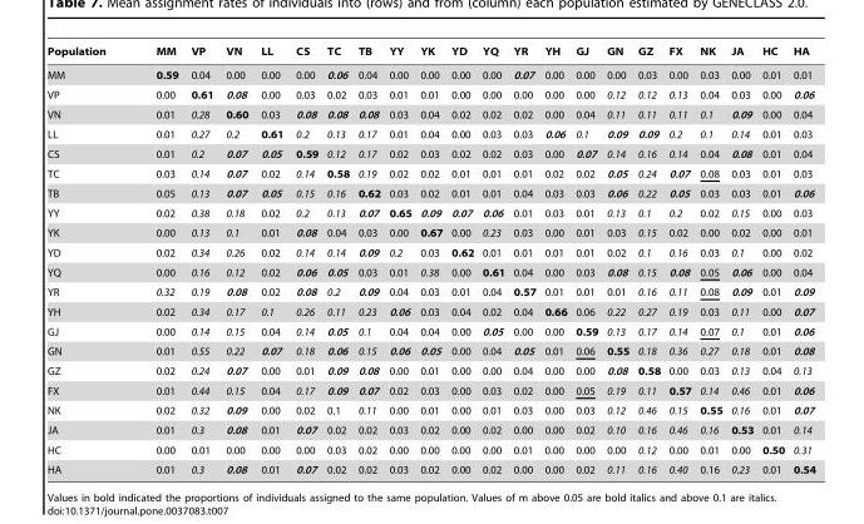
<table><thead><tr><td>Population</td><td>MM</td><td>VP</td><td>VN</td><td>LL</td><td>CS</td><td>TC</td><td>TB</td><td>YY</td><td>YK</td><td>YD</td><td>YQ</td><td>YR</td><td>YH</td><td>GJ</td><td>GN</td><td>GZ</td><td>FX</td><td>NK</td><td>JA</td><td>HC</td><td>HA</td></tr></thead><tbody><tr><td>MM</td><td>0.59</td><td>0.04</td><td>0.00</td><td>0.00</td><td>0.00</td><td>0.06</td><td>0.04</td><td>0.00</td><td>0.00</td><td>0.00</td><td>0.00</td><td>0.07</td><td>0.00</td><td>0.00</td><td>0.00</td><td>0.03</td><td>0.00</td><td>0.03</td><td>0.00</td><td>0.01</td><td>0.01</td></tr><tr><td>VP</td><td>0.00</td><td>0.61</td><td>0.08</td><td>0.00</td><td>0.03</td><td>0.02</td><td>0.03</td><td>0.01</td><td>0.01</td><td>0.00</td><td>0.00</td><td>0.00</td><td>0.00</td><td>0.00</td><td>0.12</td><td>0.12</td><td>0.13</td><td>0.04</td><td>0.03</td><td>0.00</td><td>0.06</td></tr><tr><td>VN</td><td>0.01</td><td>0.28</td><td>0.60</td><td>0.03</td><td>0.08</td><td>0.08</td><td>0.08</td><td>0.03</td><td>0.04</td><td>0.02</td><td>0.02</td><td>0.02</td><td>0.00</td><td>0.04</td><td>0.11</td><td>0.11</td><td>0.11</td><td>0.1</td><td>0.09</td><td>0.00</td><td>0.04</td></tr><tr><td>LL</td><td>0.01</td><td>0.27</td><td>0.2</td><td>0.61</td><td>0.2</td><td>0.13</td><td>0.17</td><td>0.01</td><td>0.04</td><td>0.00</td><td>0.03</td><td>0.03</td><td>0.06</td><td>0.1</td><td>0.09</td><td>0.09</td><td>0.2</td><td>0.1</td><td>0.14</td><td>0.01</td><td>0.03</td></tr><tr><td>CS</td><td>0.01</td><td>0.2</td><td>0.07</td><td>0.05</td><td>0.59</td><td>0.12</td><td>0.17</td><td>0.02</td><td>0.03</td><td>0.02</td><td>0.02</td><td>0.03</td><td>0.00</td><td>0.07</td><td>0.14</td><td>0.16</td><td>0.14</td><td>0.04</td><td>0.08</td><td>0.01</td><td>0.04</td></tr><tr><td>TC</td><td>0.03</td><td>0.14</td><td>0.07</td><td>0.02</td><td>0.14</td><td>0.58</td><td>0.19</td><td>0.02</td><td>0.02</td><td>0.01</td><td>0.01</td><td>0.01</td><td>0.02</td><td>0.02</td><td>0.05</td><td>0.24</td><td>0.07</td><td>0.08</td><td>0.03</td><td>0.01</td><td>0.03</td></tr><tr><td>TB</td><td>0.05</td><td>0.13</td><td>0.07</td><td>0.05</td><td>0.15</td><td>0.16</td><td>0.62</td><td>0.03</td><td>0.02</td><td>0.01</td><td>0.01</td><td>0.04</td><td>0.03</td><td>0.03</td><td>0.06</td><td>0.22</td><td>0.05</td><td>0.03</td><td>0.03</td><td>0.01</td><td>0.06</td></tr><tr><td>YY</td><td>0.02</td><td>0.38</td><td>0.18</td><td>0.02</td><td>0.2</td><td>0.13</td><td>0.07</td><td>0.65</td><td>0.09</td><td>0.07</td><td>0.06</td><td>0.01</td><td>0.03</td><td>0.01</td><td>0.13</td><td>0.1</td><td>0.2</td><td>0.02</td><td>0.15</td><td>0.00</td><td>0.03</td></tr><tr><td>YK</td><td>0.00</td><td>0.13</td><td>0.1</td><td>0.01</td><td>0.08</td><td>0.04</td><td>0.03</td><td>0.00</td><td>0.67</td><td>0.00</td><td>0.23</td><td>0.03</td><td>0.00</td><td>0.01</td><td>0.03</td><td>0.15</td><td>0.02</td><td>0.00</td><td>0.02</td><td>0.00</td><td>0.01</td></tr><tr><td>YD</td><td>0.02</td><td>0.34</td><td>0.26</td><td>0.02</td><td>0.14</td><td>0.14</td><td>0.09</td><td>0.2</td><td>0.03</td><td>0.62</td><td>0.01</td><td>0.01</td><td>0.01</td><td>0.01</td><td>0.02</td><td>0.1</td><td>0.16</td><td>0.03</td><td>0.1</td><td>0.00</td><td>0.02</td></tr><tr><td>YQ</td><td>0.00</td><td>0.16</td><td>0.12</td><td>0.02</td><td>0.06</td><td>0.05</td><td>0.03</td><td>0.01</td><td>0.38</td><td>0.00</td><td>0.61</td><td>0.04</td><td>0.00</td><td>0.03</td><td>0.08</td><td>0.15</td><td>0.08</td><td>0.05</td><td>0.06</td><td>0.00</td><td>0.04</td></tr><tr><td>YR</td><td>0.32</td><td>0.19</td><td>0.08</td><td>0.02</td><td>0.08</td><td>0.2</td><td>0.09</td><td>0.04</td><td>0.03</td><td>0.01</td><td>0.04</td><td>0.57</td><td>0.01</td><td>0.01</td><td>0.01</td><td>0.16</td><td>0.11</td><td>0.08</td><td>0.09</td><td>0.01</td><td>0.09</td></tr><tr><td>YH</td><td>0.02</td><td>0.34</td><td>0.17</td><td>0.1</td><td>0.26</td><td>0.11</td><td>0.23</td><td>0.06</td><td>0.03</td><td>0.04</td><td>0.02</td><td>0.04</td><td>0.66</td><td>0.06</td><td>0.22</td><td>0.27</td><td>0.19</td><td>0.03</td><td>0.11</td><td>0.00</td><td>0.07</td></tr><tr><td>GJ</td><td>0.00</td><td>0.14</td><td>0.15</td><td>0.04</td><td>0.14</td><td>0.05</td><td>0.1</td><td>0.04</td><td>0.04</td><td>0.00</td><td>0.05</td><td>0.00</td><td>0.00</td><td>0.59</td><td>0.13</td><td>0.17</td><td>0.14</td><td>0.07</td><td>0.1</td><td>0.01</td><td>0.06</td></tr><tr><td>GN</td><td>0.01</td><td>0.55</td><td>0.22</td><td>0.07</td><td>0.18</td><td>0.06</td><td>0.15</td><td>0.06</td><td>0.05</td><td>0.00</td><td>0.04</td><td>0.05</td><td>0.01</td><td>0.06</td><td>0.55</td><td>0.18</td><td>0.36</td><td>0.27</td><td>0.18</td><td>0.01</td><td>0.08</td></tr><tr><td>GZ</td><td>0.02</td><td>0.24</td><td>0.07</td><td>0.00</td><td>0.01</td><td>0.09</td><td>0.08</td><td>0.00</td><td>0.01</td><td>0.00</td><td>0.00</td><td>0.04</td><td>0.00</td><td>0.00</td><td>0.08</td><td>0.58</td><td>0.00</td><td>0.03</td><td>0.13</td><td>0.04</td><td>0.13</td></tr><tr><td>FX</td><td>0.01</td><td>0.44</td><td>0.15</td><td>0.04</td><td>0.17</td><td>0.09</td><td>0.07</td><td>0.02</td><td>0.03</td><td>0.00</td><td>0.03</td><td>0.02</td><td>0.00</td><td>0.05</td><td>0.19</td><td>0.11</td><td>0.57</td><td>0.14</td><td>0.46</td><td>0.01</td><td>0.06</td></tr><tr><td>NK</td><td>0.02</td><td>0.32</td><td>0.09</td><td>0.00</td><td>0.02</td><td>0.1</td><td>0.11</td><td>0.00</td><td>0.01</td><td>0.00</td><td>0.01</td><td>0.03</td><td>0.00</td><td>0.03</td><td>0.12</td><td>0.46</td><td>0.15</td><td>0.55</td><td>0.16</td><td>0.01</td><td>0.07</td></tr><tr><td>JA</td><td>0.01</td><td>0.3</td><td>0.08</td><td>0.01</td><td>0.07</td><td>0.02</td><td>0.02</td><td>0.03</td><td>0.02</td><td>0.00</td><td>0.02</td><td>0.00</td><td>0.00</td><td>0.02</td><td>0.10</td><td>0.16</td><td>0.46</td><td>0.16</td><td>0.53</td><td>0.01</td><td>0.14</td></tr><tr><td>HC</td><td>0.00</td><td>0.01</td><td>0.00</td><td>0.00</td><td>0.00</td><td>0.03</td><td>0.02</td><td>0.00</td><td>0.00</td><td>0.00</td><td>0.00</td><td>0.01</td><td>0.00</td><td>0.00</td><td>0.00</td><td>0.12</td><td>0.00</td><td>0.01</td><td>0.00</td><td>0.50</td><td>0.31</td></tr><tr><td>HA</td><td>0.01</td><td>0.3</td><td>0.08</td><td>0.01</td><td>0.07</td><td>0.02</td><td>0.02</td><td>0.03</td><td>0.02</td><td>0.00</td><td>0.02</td><td>0.00</td><td>0.00</td><td>0.02</td><td>0.11</td><td>0.16</td><td>0.40</td><td>0.16</td><td>0.23</td><td>0.01</td><td>0.54</td></tr></tbody></table>